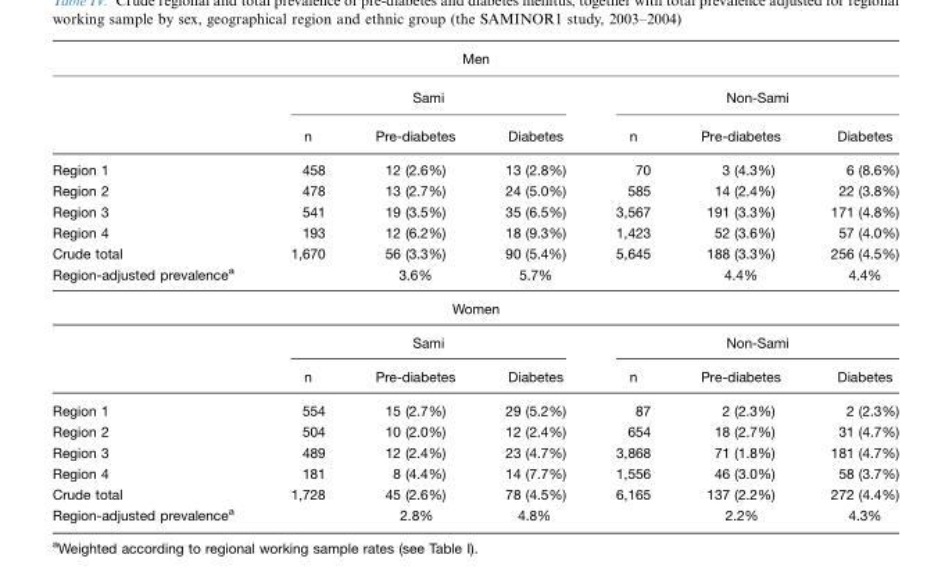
<table><thead><tr><td colspan="7">Men</td></tr><tr><td rowspan="2"></td><td colspan="3">Sami</td><td colspan="3">Non-Sami</td></tr><tr><td>n</td><td>Pre-diabetes</td><td>Diabetes</td><td>n</td><td>Pre-diabetes</td><td>Diabetes</td></tr></thead><tbody><tr><td>Region 1</td><td>458</td><td>12 (2.6%)</td><td>13 (2.8%)</td><td>70</td><td>3 (4.3%)</td><td>6 (8.6%)</td></tr><tr><td>Region 2</td><td>478</td><td>13 (2.7%)</td><td>24 (5.0%)</td><td>585</td><td>14 (2.4%)</td><td>22 (3.8%)</td></tr><tr><td>Region 3</td><td>541</td><td>19 (3.5%)</td><td>35 (6.5%)</td><td>3,567</td><td>191 (3.3%)</td><td>171 (4.8%)</td></tr><tr><td>Region 4</td><td>193</td><td>12 (6.2%)</td><td>18 (9.3%)</td><td>1,423</td><td>52 (3.6%)</td><td>57 (4.0%)</td></tr><tr><td>Crude total</td><td>1,670</td><td>56 (3.3%)</td><td>90 (5.4%)</td><td>5,645</td><td>188 (3.3%)</td><td>256 (4.5%)</td></tr><tr><td>Region-adjusted prevalence<sup>a</sup></td><td></td><td>3.6%</td><td>5.7%</td><td></td><td>4.4%</td><td>4.4%</td></tr><tr><td colspan="7">Women</td></tr><tr><td></td><td colspan="3">Sami</td><td colspan="3">Non-Sami</td></tr><tr><td></td><td>n</td><td>Pre-diabetes</td><td>Diabetes</td><td>n</td><td>Pre-diabetes</td><td>Diabetes</td></tr><tr><td>Region 1</td><td>554</td><td>15 (2.7%)</td><td>29 (5.2%)</td><td>87</td><td>2 (2.3%)</td><td>2 (2.3%)</td></tr><tr><td>Region 2</td><td>504</td><td>10 (2.0%)</td><td>12 (2.4%)</td><td>654</td><td>18 (2.7%)</td><td>31 (4.7%)</td></tr><tr><td>Region 3</td><td>489</td><td>12 (2.4%)</td><td>23 (4.7%)</td><td>3,868</td><td>71 (1.8%)</td><td>181 (4.7%)</td></tr><tr><td>Region 4</td><td>181</td><td>8 (4.4%)</td><td>14 (7.7%)</td><td>1,556</td><td>46 (3.0%)</td><td>58 (3.7%)</td></tr><tr><td>Crude total</td><td>1,728</td><td>45 (2.6%)</td><td>78 (4.5%)</td><td>6,165</td><td>137 (2.2%)</td><td>272 (4.4%)</td></tr><tr><td>Region-adjusted prevalence<sup>a</sup></td><td></td><td>2.8%</td><td>4.8%</td><td></td><td>2.2%</td><td>4.3%</td></tr></tbody></table>